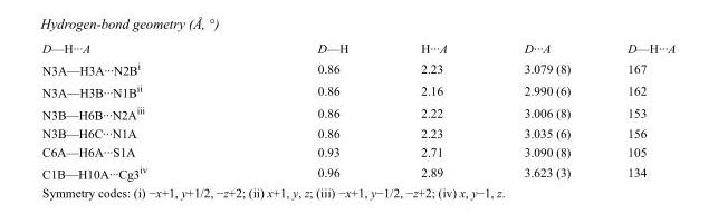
<table><tbody><tr><td>D—H···A</td><td>D—H</td><td>H···A</td><td>D···A</td><td>D—H···A</td></tr><tr><td>N3A—H3A···N2B<sup>i</sup></td><td>0.86</td><td>2.23</td><td>3.079 (8)</td><td>167</td></tr><tr><td>N3A—H3B···N1B<sup>ii</sup></td><td>0.86</td><td>2.16</td><td>2.990 (6)</td><td>162</td></tr><tr><td>N3B—H6B···N2A<sup>iii</sup></td><td>0.86</td><td>2.22</td><td>3.006 (8)</td><td>153</td></tr><tr><td>N3B—H6C···N1A</td><td>0.86</td><td>2.23</td><td>3.035 (6)</td><td>156</td></tr><tr><td>C6A—H6A···S1A</td><td>0.93</td><td>2.71</td><td>3.090 (8)</td><td>105</td></tr><tr><td>C1B—H10A···Cg3<sup>iv</sup></td><td>0.96</td><td>2.89</td><td>3.623 (3)</td><td>134</td></tr></tbody></table>